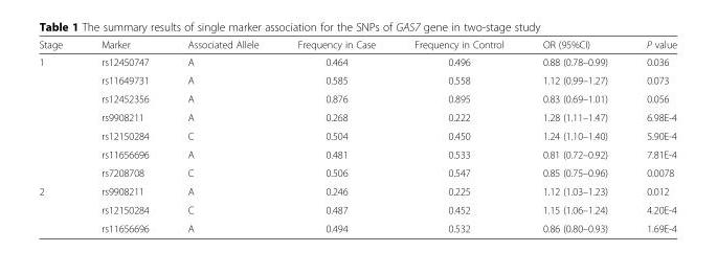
<table><thead><tr><td>Stage</td><td>Marker</td><td>Associated Allele</td><td>Frequency in Case</td><td>Frequency in Control</td><td>OR (95%CI)</td><td>P value</td></tr></thead><tbody><tr><td rowspan="7">1</td><td>rs12450747</td><td>A</td><td>0.464</td><td>0.496</td><td>0.88 (0.78–0.99)</td><td>0.036</td></tr><tr><td>rs11649731</td><td>A</td><td>0.585</td><td>0.558</td><td>1.12 (0.99–1.27)</td><td>0.073</td></tr><tr><td>rs12452356</td><td>A</td><td>0.876</td><td>0.895</td><td>0.83 (0.69–1.01)</td><td>0.056</td></tr><tr><td>rs9908211</td><td>A</td><td>0.268</td><td>0.222</td><td>1.28 (1.11–1.47)</td><td>6.98E-4</td></tr><tr><td>rs12150284</td><td>C</td><td>0.504</td><td>0.450</td><td>1.24 (1.10–1.40)</td><td>5.90E-4</td></tr><tr><td>rs11656696</td><td>A</td><td>0.481</td><td>0.533</td><td>0.81 (0.72–0.92)</td><td>7.81E-4</td></tr><tr><td>rs7208708</td><td>C</td><td>0.506</td><td>0.547</td><td>0.85 (0.75–0.96)</td><td>0.0078</td></tr><tr><td rowspan="3">2</td><td>rs9908211</td><td>A</td><td>0.246</td><td>0.225</td><td>1.12 (1.03–1.23)</td><td>0.012</td></tr><tr><td>rs12150284</td><td>C</td><td>0.487</td><td>0.452</td><td>1.15 (1.06–1.24)</td><td>4.20E-4</td></tr><tr><td>rs11656696</td><td>A</td><td>0.494</td><td>0.532</td><td>0.86 (0.80–0.93)</td><td>1.69E-4</td></tr></tbody></table>